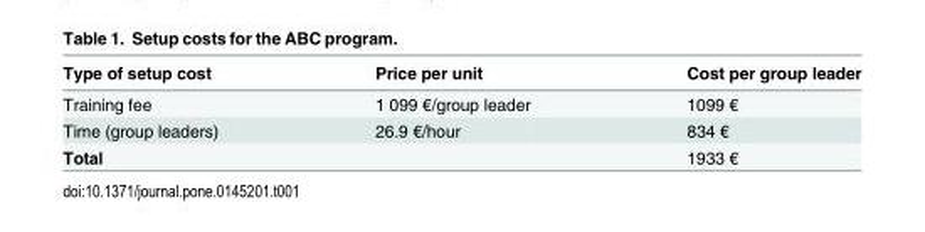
<table><thead><tr><td>Type of setup cost</td><td>Price per unit</td><td>Cost per group leader</td></tr></thead><tbody><tr><td>Training fee</td><td>1 099 €/group leader</td><td>1099 €</td></tr><tr><td>Time (group leaders)</td><td>26.9 €/hour</td><td>834 €</td></tr><tr><td>Total</td><td></td><td>1933 €</td></tr></tbody></table>